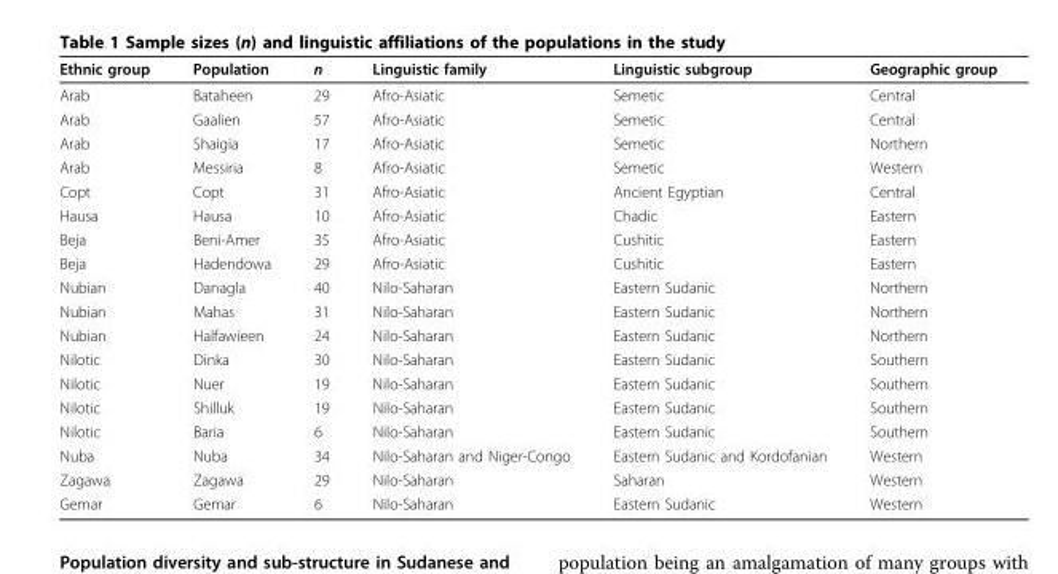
<table><thead><tr><td>Ethnic group</td><td>Population</td><td>n</td><td>Linguistic family</td><td>Linguistic subgroup</td><td>Geographic group</td></tr></thead><tbody><tr><td>Arab</td><td>Bataheen</td><td>29</td><td>Afro-Asiatic</td><td>Semetic</td><td>Central</td></tr><tr><td>Arab</td><td>Gaalien</td><td>57</td><td>Afro-Asiatic</td><td>Semetic</td><td>Central</td></tr><tr><td>Arab</td><td>Shaigia</td><td>17</td><td>Afro-Asiatic</td><td>Semetic</td><td>Northern</td></tr><tr><td>Arab</td><td>Messiria</td><td>8</td><td>Afro-Asiatic</td><td>Semetic</td><td>Western</td></tr><tr><td>Copt</td><td>Copt</td><td>31</td><td>Afro-Asiatic</td><td>Ancient Egyptian</td><td>Central</td></tr><tr><td>Hausa</td><td>Hausa</td><td>10</td><td>Afro-Asiatic</td><td>Chadic</td><td>Eastern</td></tr><tr><td>Beja</td><td>Beni-Amer</td><td>35</td><td>Afro-Asiatic</td><td>Cushitic</td><td>Eastern</td></tr><tr><td>Beja</td><td>Hadendowa</td><td>29</td><td>Afro-Asiatic</td><td>Cushitic</td><td>Eastern</td></tr><tr><td>Nubian</td><td>Danagla</td><td>40</td><td>Nilo-Saharan</td><td>Eastern Sudanic</td><td>Northern</td></tr><tr><td>Nubian</td><td>Mahas</td><td>31</td><td>Nilo-Saharan</td><td>Eastern Sudanic</td><td>Northern</td></tr><tr><td>Nubian</td><td>Halfawieen</td><td>24</td><td>Nilo-Saharan</td><td>Eastern Sudanic</td><td>Northern</td></tr><tr><td>Nilotic</td><td>Dinka</td><td>30</td><td>Nilo-Saharan</td><td>Eastern Sudanic</td><td>Southern</td></tr><tr><td>Nilotic</td><td>Nuer</td><td>19</td><td>Nilo-Saharan</td><td>Eastern Sudanic</td><td>Southern</td></tr><tr><td>Nilotic</td><td>Shilluk</td><td>19</td><td>Nilo-Saharan</td><td>Eastern Sudanic</td><td>Southern</td></tr><tr><td>Nilotic</td><td>Baria</td><td>6</td><td>Nilo-Saharan</td><td>Eastern Sudanic</td><td>Southern</td></tr><tr><td>Nuba</td><td>Nuba</td><td>34</td><td>Nilo-Saharan and Niger-Congo</td><td>Eastern Sudanic and Kordofanian</td><td>Western</td></tr><tr><td>Zagawa</td><td>Zagawa</td><td>29</td><td>Nilo-Saharan</td><td>Saharan</td><td>Western</td></tr><tr><td>Gemar</td><td>Gemar</td><td>6</td><td>Nilo-Saharan</td><td>Eastern Sudanic</td><td>Western</td></tr></tbody></table>